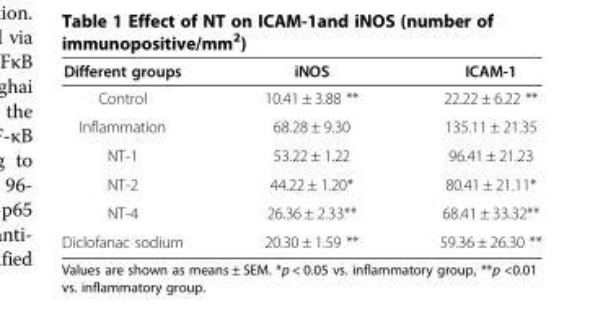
<table><thead><tr><td>Different groups</td><td>iNOS</td><td>ICAM-1</td></tr></thead><tbody><tr><td>Control</td><td>10.41 ± 3.88 **</td><td>22.22 ± 6.22 **</td></tr><tr><td>Inflammation</td><td>68.28 ± 9.30</td><td>135.11 ± 21.35</td></tr><tr><td>NT-1</td><td>53.22 ± 1.22</td><td>96.41 ± 21.23</td></tr><tr><td>NT-2</td><td>44.22 ± 1.20*</td><td>80.41 ± 21.11*</td></tr><tr><td>NT-4</td><td>26.36 ± 2.33**</td><td>68.41 ± 33.32**</td></tr><tr><td>Diclofanac sodium</td><td>20.30 ± 1.59 **</td><td>59.36 ± 26.30 **</td></tr></tbody></table>